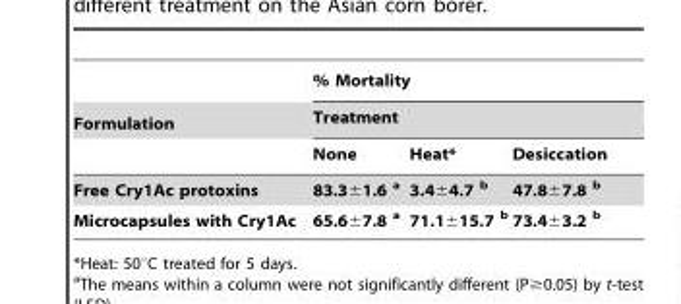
<table><thead><tr><td rowspan="3">Formulation</td><td rowspan="2" colspan="3">% Mortality Treatment</td></tr><tr></tr><tr><td>None</td><td>Heat*</td><td>Desiccation</td></tr></thead><tbody><tr><td>Free Cry1Ac protoxins</td><td>83.3±1.6 a</td><td>3.4±4.7 b</td><td>47.8±7.8 b</td></tr><tr><td>Microcapsules with Cry1Ac</td><td>65.6±7.8 a</td><td>71.1±15.7 b</td><td>73.4±3.2 b</td></tr></tbody></table>